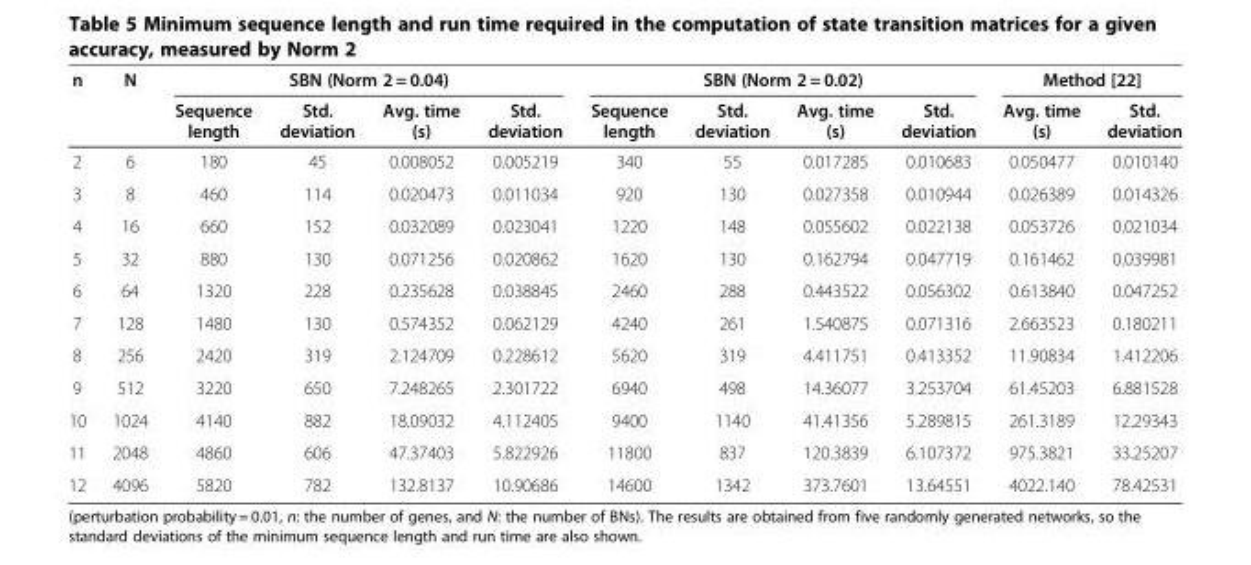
<table><thead><tr><td rowspan="2">n</td><td rowspan="2">N</td><td colspan="4">SBN (Norm 2 = 0.04)</td><td colspan="4">SBN (Norm 2 = 0.02)</td><td colspan="2">Method [22]</td></tr><tr><td>Sequence length</td><td>Std. deviation</td><td>Avg. time (s)</td><td>Std. deviation</td><td>Sequence length</td><td>Std. deviation</td><td>Avg. time (s)</td><td>Std. deviation</td><td>Avg. time (s)</td><td>Std. deviation</td></tr></thead><tbody><tr><td>2</td><td>6</td><td>180</td><td>45</td><td>0.008052</td><td>0.005219</td><td>340</td><td>55</td><td>0.017285</td><td>0.010683</td><td>0.050477</td><td>0.010140</td></tr><tr><td>3</td><td>8</td><td>460</td><td>114</td><td>0.020473</td><td>0.011034</td><td>920</td><td>130</td><td>0.027358</td><td>0.010944</td><td>0.026389</td><td>0.014326</td></tr><tr><td>4</td><td>16</td><td>660</td><td>152</td><td>0.032089</td><td>0.023041</td><td>1220</td><td>148</td><td>0.055602</td><td>0.022138</td><td>0.053726</td><td>0.021034</td></tr><tr><td>5</td><td>32</td><td>880</td><td>130</td><td>0.071256</td><td>0.020862</td><td>1620</td><td>130</td><td>0.162794</td><td>0.047719</td><td>0.161462</td><td>0.039981</td></tr><tr><td>6</td><td>64</td><td>1320</td><td>228</td><td>0.235628</td><td>0.038845</td><td>2460</td><td>288</td><td>0.443522</td><td>0.056302</td><td>0.613840</td><td>0.047252</td></tr><tr><td>7</td><td>128</td><td>1480</td><td>130</td><td>0.574352</td><td>0.062129</td><td>4240</td><td>261</td><td>1.540875</td><td>0.071316</td><td>2.663523</td><td>0.180211</td></tr><tr><td>8</td><td>256</td><td>2420</td><td>319</td><td>2.124709</td><td>0.228612</td><td>5620</td><td>319</td><td>4.411751</td><td>0.413352</td><td>11.90834</td><td>1.412206</td></tr><tr><td>9</td><td>512</td><td>3220</td><td>650</td><td>7.248265</td><td>2.301722</td><td>6940</td><td>498</td><td>14.36077</td><td>3.253704</td><td>61.45203</td><td>6.881528</td></tr><tr><td>10</td><td>1024</td><td>4140</td><td>882</td><td>18.09032</td><td>4.112405</td><td>9400</td><td>1140</td><td>41.41356</td><td>5.289815</td><td>261.3189</td><td>12.29343</td></tr><tr><td>11</td><td>2048</td><td>4860</td><td>606</td><td>47.37403</td><td>5.822926</td><td>11800</td><td>837</td><td>120.3839</td><td>6.107372</td><td>975.3821</td><td>33.25207</td></tr><tr><td>12</td><td>4096</td><td>5820</td><td>782</td><td>132.8137</td><td>10.90686</td><td>14600</td><td>1342</td><td>373.7601</td><td>13.64551</td><td>4022.140</td><td>78.42531</td></tr></tbody></table>